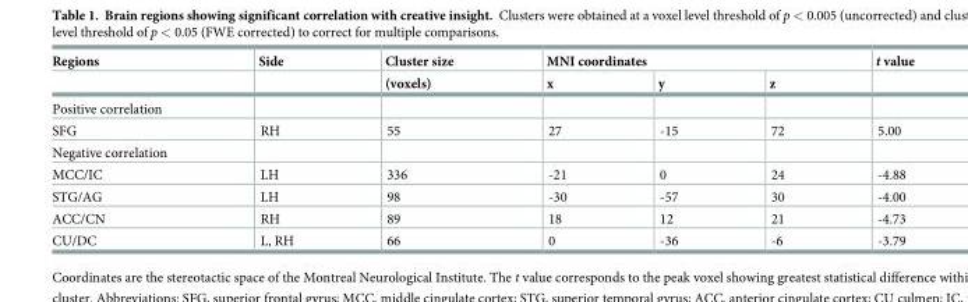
<table><thead><tr><td rowspan="2">Regions</td><td rowspan="2">Side</td><td rowspan="2">Cluster size (voxels)</td><td colspan="3">MNI coordinates</td><td rowspan="2">t value</td></tr><tr><td>x</td><td>y</td><td>z</td></tr></thead><tbody><tr><td colspan="7">Positive correlation</td></tr><tr><td>SFG</td><td>RH</td><td>55</td><td>27</td><td>-15</td><td>72</td><td>5.00</td></tr><tr><td colspan="7">Negative correlation</td></tr><tr><td>MCC/IC</td><td>LH</td><td>336</td><td>-21</td><td>0</td><td>24</td><td>-4.88</td></tr><tr><td>STG/AG</td><td>LH</td><td>98</td><td>-30</td><td>-57</td><td>30</td><td>-4.00</td></tr><tr><td>ACC/CN</td><td>RH</td><td>89</td><td>18</td><td>12</td><td>21</td><td>-4.73</td></tr><tr><td>CU/DC</td><td>L, RH</td><td>66</td><td>0</td><td>-36</td><td>-6</td><td>-3.79</td></tr></tbody></table>